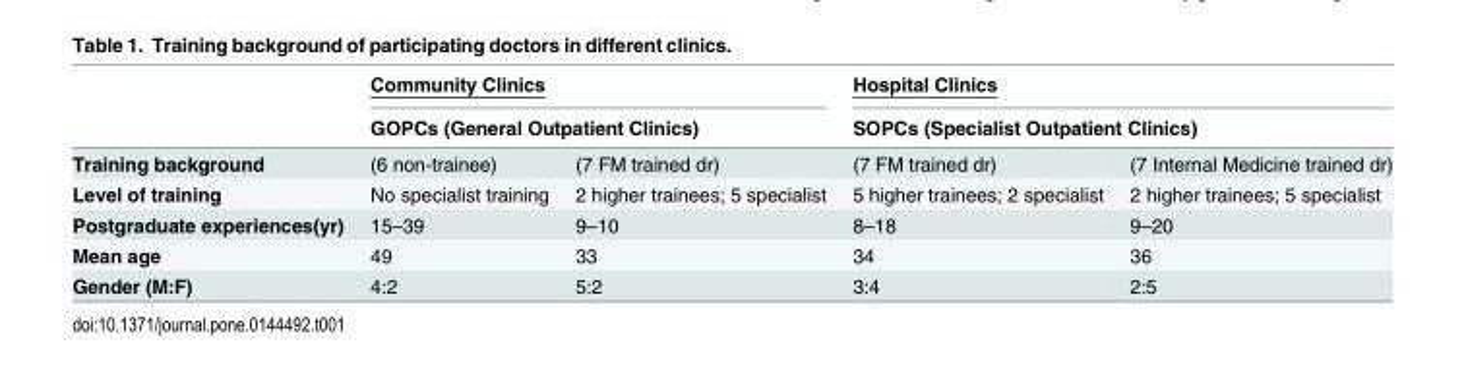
<table><thead><tr><td rowspan="3">Training background</td><td rowspan="2" colspan="2">Community Clinics GOPCs (General Outpatient Clinics)</td><td rowspan="2" colspan="2">Hospital Clinics SOPCs (Specialist Outpatient Clinics)</td></tr><tr></tr><tr><td>(6 non-trainee)</td><td>(7 FM trained dr)</td><td>(7 FM trained dr)</td><td>(7 Internal Medicine trained dr)</td></tr></thead><tbody><tr><td>Level of training</td><td>No specialist training</td><td>2 higher trainees; 5 specialist</td><td>5 higher trainees; 2 specialist</td><td>2 higher trainees; 5 specialist</td></tr><tr><td>Postgraduate experiences(yr)</td><td>15–39</td><td>9–10</td><td>8–18</td><td>9–20</td></tr><tr><td>Mean age</td><td>49</td><td>33</td><td>34</td><td>36</td></tr><tr><td>Gender (M:F)</td><td>4:2</td><td>5:2</td><td>3:4</td><td>2:5</td></tr></tbody></table>